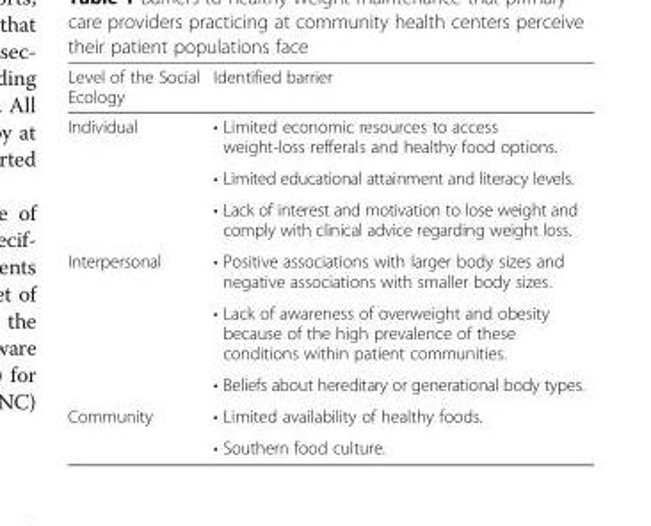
<table><thead><tr><td>Level of the Social Ecology</td><td>Identified barrier</td></tr></thead><tbody><tr><td rowspan="3">Individual</td><td>• Limited economic resources to access weight-loss refferals and healthy food options.</td></tr><tr><td>• Limited educational attainment and literacy levels.</td></tr><tr><td>• Lack of interest and motivation to lose weight and comply with clinical advice regarding weight loss.</td></tr><tr><td rowspan="3">Interpersonal</td><td>• Positive associations with larger body sizes and negative associations with smaller body sizes.</td></tr><tr><td>• Lack of awareness of overweight and obesity because of the high prevalence of these conditions within patient communities.</td></tr><tr><td>• Beliefs about hereditary or generational body types.</td></tr><tr><td rowspan="2">Community</td><td>• Limited availability of healthy foods.</td></tr><tr><td>• Southern food culture.</td></tr></tbody></table>